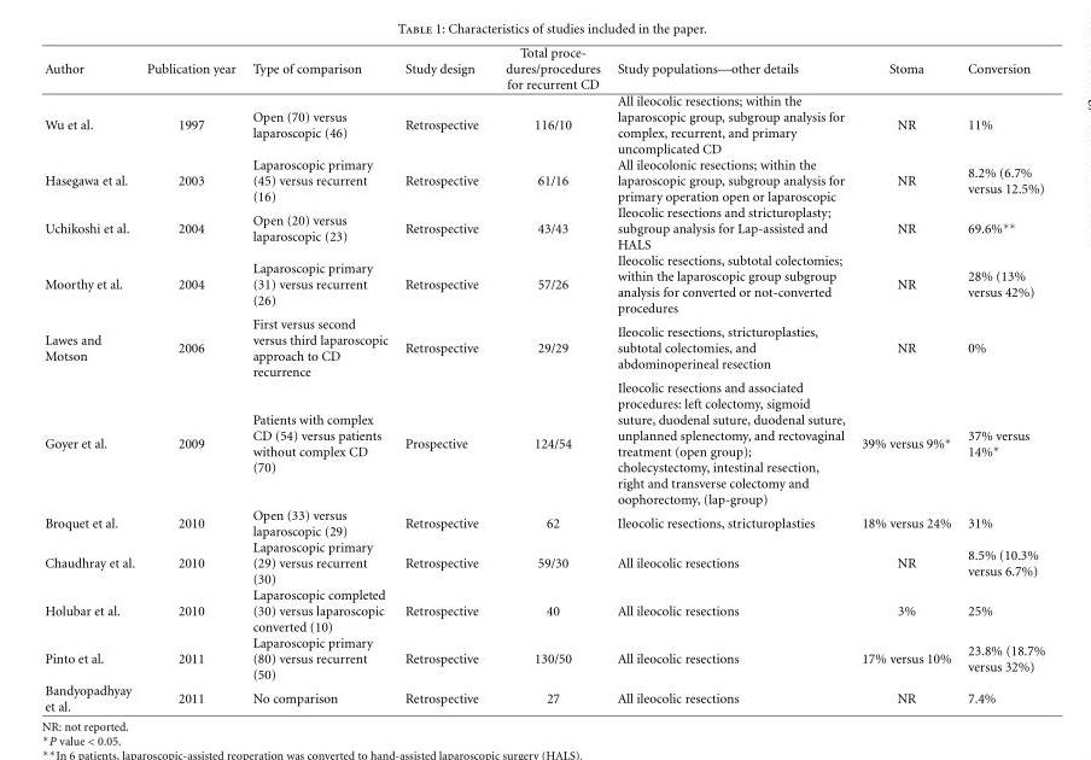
<table><thead><tr><td>Author</td><td>Publication year</td><td>Type of comparison</td><td>Study design</td><td>Total proce- dures/procedures for recurrent CD</td><td>Study populations—other details</td><td>Stoma</td><td>Conversion</td></tr></thead><tbody><tr><td>Wu et al.</td><td>1997</td><td>Open (70) versus laparoscopic (46)</td><td>Retrospective</td><td>116/10</td><td>All ileocolic resections; within the laparoscopic group, subgroup analysis for complex, recurrent, and primary uncomplicated CD</td><td>NR</td><td>11%</td></tr><tr><td>Hasegawa et al.</td><td>2003</td><td>Laparoscopic primary (45) versus recurrent (16)</td><td>Retrospective</td><td>61/16</td><td>All ileocolonic resections; within the laparoscopic group, subgroup analysis for primary operation open or laparoscopic</td><td>NR</td><td>8.2% (6.7% versus 12.5%)</td></tr><tr><td>Uchikoshi et al.</td><td>2004</td><td>Open (20) versus laparoscopic (23)</td><td>Retrospective</td><td>43/43</td><td>Ileocolic resections and stricturoplasty; subgroup analysis for Lap-assisted and HALS</td><td>NR</td><td>69.6%∗∗</td></tr><tr><td>Moorthy et al.</td><td>2004</td><td>Laparoscopic primary (31) versus recurrent (26)</td><td>Retrospective</td><td>57/26</td><td>Ileocolic resections, subtotal colectomies; within the laparoscopic group subgroup analysis for converted or not-converted procedures</td><td>NR</td><td>28% (13% versus 42%)</td></tr><tr><td>Lawes and Motson</td><td>2006</td><td>First versus second versus third laparoscopic approach to CD recurrence</td><td>Retrospective</td><td>29/29</td><td>Ileocolic resections, stricturoplasties, subtotal colectomies, and abdominoperineal resection</td><td>NR</td><td>0%</td></tr><tr><td>Goyer et al.</td><td>2009</td><td>Patients with complex CD (54) versus patients without complex CD (70)</td><td>Prospective</td><td>124/54</td><td>Ileocolic resections and associated procedures: left colectomy, sigmoid suture, duodenal suture, duodenal suture, unplanned splenectomy, and rectovaginal treatment (open group); cholecystectomy, intestinal resection, right and transverse colectomy and oophorectomy, (lap-group)</td><td>39% versus 9%∗</td><td>37% versus 14%∗</td></tr><tr><td>Broquet et al.</td><td>2010</td><td>Open (33) versus laparoscopic (29)</td><td>Retrospective</td><td>62</td><td>Ileocolic resections, stricturoplasties</td><td>18% versus 24%</td><td>31%</td></tr><tr><td>Chaudhray et al.</td><td>2010</td><td>Laparoscopic primary (29) versus recurrent (30)</td><td>Retrospective</td><td>59/30</td><td>All ileocolic resections</td><td>NR</td><td>8.5% (10.3% versus 6.7%)</td></tr><tr><td>Holubar et al.</td><td>2010</td><td>Laparoscopic completed (30) versus laparoscopic converted (10)</td><td>Retrospective</td><td>40</td><td>All ileocolic resections</td><td>3%</td><td>25%</td></tr><tr><td>Pinto et al.</td><td>2011</td><td>Laparoscopic primary (80) versus recurrent (50)</td><td>Retrospective</td><td>130/50</td><td>All ileocolic resections</td><td>17% versus 10%</td><td>23.8% (18.7% versus 32%)</td></tr><tr><td>Bandyopadhyay et al.</td><td>2011</td><td>No comparison</td><td>Retrospective</td><td>27</td><td>All ileocolic resections</td><td>NR</td><td>7.4%</td></tr></tbody></table>